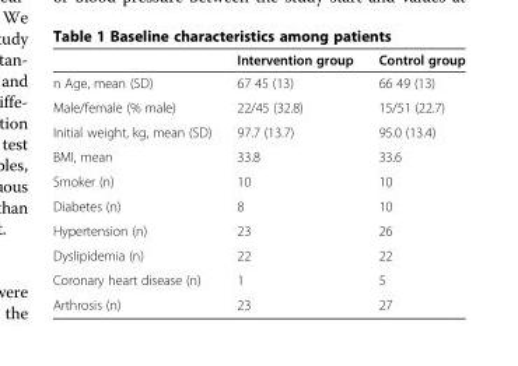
<table><thead><tr><td></td><td>Intervention group</td><td>Control group</td></tr></thead><tbody><tr><td>n Age, mean (SD)</td><td>67 45 (13)</td><td>66 49 (13)</td></tr><tr><td>Male/female (% male)</td><td>22/45 (32.8)</td><td>15/51 (22.7)</td></tr><tr><td>Initial weight, kg, mean (SD)</td><td>97.7 (13.7)</td><td>95.0 (13.4)</td></tr><tr><td>BMI, mean</td><td>33.8</td><td>33.6</td></tr><tr><td>Smoker (n)</td><td>10</td><td>10</td></tr><tr><td>Diabetes (n)</td><td>8</td><td>10</td></tr><tr><td>Hypertension (n)</td><td>23</td><td>26</td></tr><tr><td>Dyslipidemia (n)</td><td>22</td><td>22</td></tr><tr><td>Coronary heart disease (n)</td><td>1</td><td>5</td></tr><tr><td>Arthrosis (n)</td><td>23</td><td>27</td></tr></tbody></table>